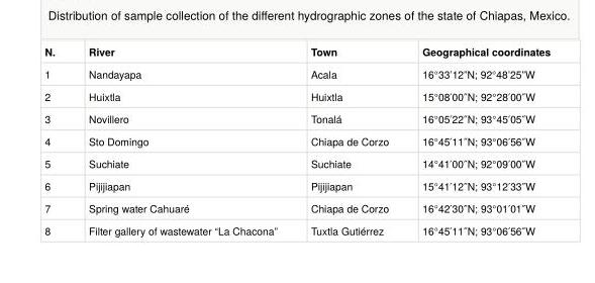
<table><tbody><tr><td>N.</td><td>River</td><td>Town</td><td>Geographical coordinates</td></tr><tr><td>1</td><td>Nandayapa</td><td>Acala</td><td>16°33’12”N; 92°48’25”W</td></tr><tr><td>2</td><td>Huixtla</td><td>Huixtla</td><td>15°08′00″N; 92°28′00″W</td></tr><tr><td>3</td><td>Novillero</td><td>Tonalá</td><td>16°05′22″N; 93°45′05″W</td></tr><tr><td>4</td><td>Sto Domingo</td><td>Chiapa de Corzo</td><td>16°45′11″N; 93°06′56″W</td></tr><tr><td>5</td><td>Suchiate</td><td>Suchiate</td><td>14°41′00″N; 92°09′00″W</td></tr><tr><td>6</td><td>Pijijiapan</td><td>Pijijiapan</td><td>15°41′12″N; 93°12′33″W</td></tr><tr><td>7</td><td>Spring water Cahuaré</td><td>Chiapa de Corzo</td><td>16°42′30″N; 93°01′01″W</td></tr><tr><td>8</td><td>Filter gallery of wastewater “La Chacona”</td><td>Tuxtla Gutiérrez</td><td>16°45′11″N; 93°06′56″W</td></tr></tbody></table>